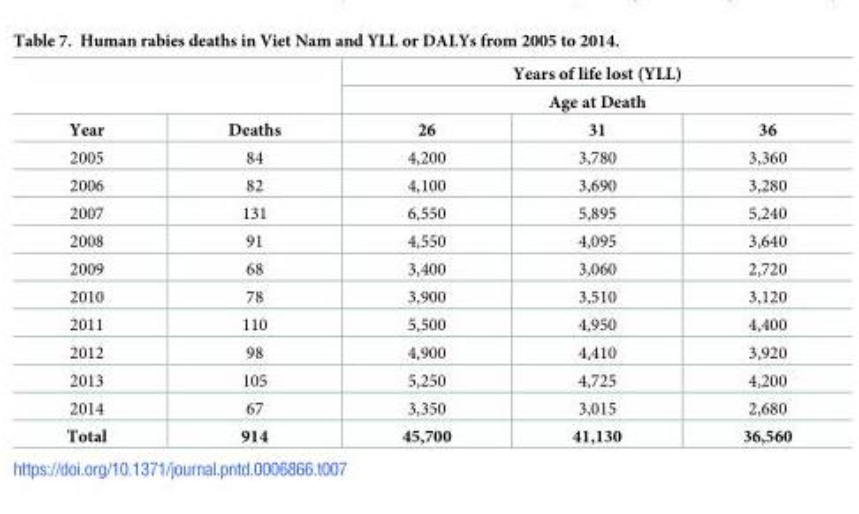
<table><thead><tr><td rowspan="3">Year</td><td rowspan="3">Deaths</td><td rowspan="2" colspan="3">Years of life lost (YLL) Age at Death</td></tr><tr></tr><tr><td>26</td><td>31</td><td>36</td></tr></thead><tbody><tr><td>2005</td><td>84</td><td>4,200</td><td>3,780</td><td>3,360</td></tr><tr><td>2006</td><td>82</td><td>4,100</td><td>3,690</td><td>3,280</td></tr><tr><td>2007</td><td>131</td><td>6,550</td><td>5,895</td><td>5,240</td></tr><tr><td>2008</td><td>91</td><td>4,550</td><td>4,095</td><td>3,640</td></tr><tr><td>2009</td><td>68</td><td>3,400</td><td>3,060</td><td>2,720</td></tr><tr><td>2010</td><td>78</td><td>3,900</td><td>3,510</td><td>3,120</td></tr><tr><td>2011</td><td>110</td><td>5,500</td><td>4,950</td><td>4,400</td></tr><tr><td>2012</td><td>98</td><td>4,900</td><td>4,410</td><td>3,920</td></tr><tr><td>2013</td><td>105</td><td>5,250</td><td>4,725</td><td>4,200</td></tr><tr><td>2014</td><td>67</td><td>3,350</td><td>3,015</td><td>2,680</td></tr><tr><td>Total</td><td>914</td><td>45,700</td><td>41,130</td><td>36,560</td></tr></tbody></table>